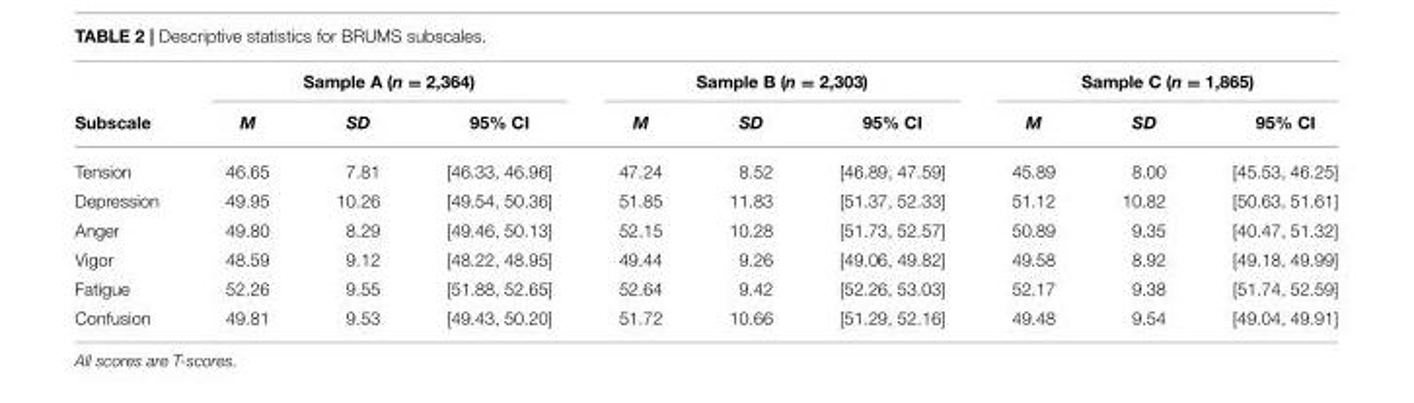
<table><thead><tr><td rowspan="2">Subscale</td><td colspan="3">Sample A (n = 2,364)</td><td colspan="3">Sample B (n = 2,303)</td><td colspan="3">Sample C (n = 1,865)</td></tr><tr><td>M</td><td>SD</td><td>95% CI</td><td>M</td><td>SD</td><td>95% CI</td><td>M</td><td>SD</td><td>95% CI</td></tr></thead><tbody><tr><td>Tension</td><td>46.65</td><td>7.81</td><td>[46.33, 46.96]</td><td>47.24</td><td>8.52</td><td>[46.89, 47.59]</td><td>45.89</td><td>8.00</td><td>[45.53, 46.25]</td></tr><tr><td>Depression</td><td>49.95</td><td>10.26</td><td>[49.54, 50.36]</td><td>51.85</td><td>11.83</td><td>[51.37, 52.33]</td><td>51.12</td><td>10.82</td><td>[50.63, 51.61]</td></tr><tr><td>Anger</td><td>49.80</td><td>8.29</td><td>[49.46, 50.13]</td><td>52.15</td><td>10.28</td><td>[51.73, 52.57]</td><td>50.89</td><td>9.35</td><td>[40.47, 51.32]</td></tr><tr><td>Vigor</td><td>48.59</td><td>9.12</td><td>[48.22, 48.95]</td><td>49.44</td><td>9.26</td><td>[49.06, 49.82]</td><td>49.58</td><td>8.92</td><td>[49.18, 49.99]</td></tr><tr><td>Fatigue</td><td>52.26</td><td>9.55</td><td>[51.88, 52.65]</td><td>52.64</td><td>9.42</td><td>[52.26, 53.03]</td><td>52.17</td><td>9.38</td><td>[51.74, 52.59]</td></tr><tr><td>Confusion</td><td>49.81</td><td>9.53</td><td>[49.43, 50.20]</td><td>51.72</td><td>10.66</td><td>[51.29, 52.16]</td><td>49.48</td><td>9.54</td><td>[49.04, 49.91]</td></tr></tbody></table>